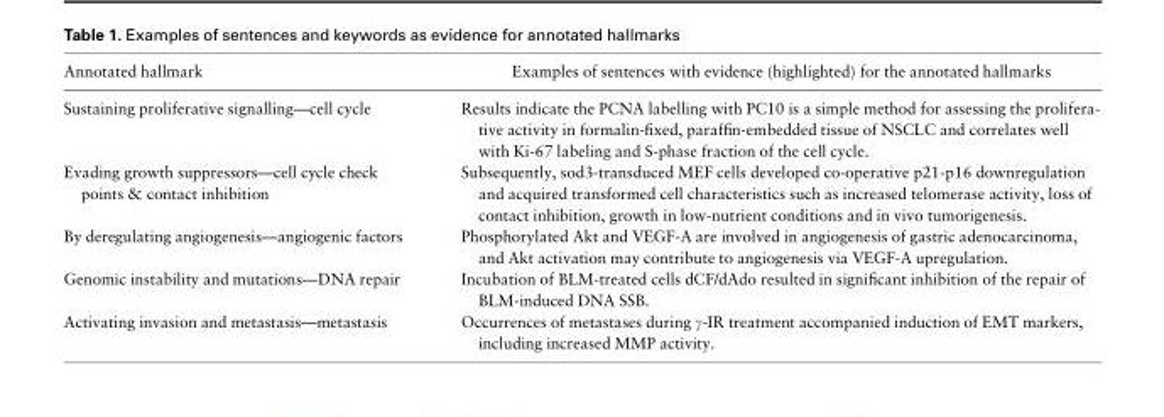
<table><thead><tr><td>Annotated hallmark</td><td>Examples of sentences with evidence (highlighted) for the annotated hallmarks</td></tr></thead><tbody><tr><td>Sustaining proliferative signalling—cell cycle</td><td>Results indicate the PCNA labelling with PC10 is a simple method for assessing the prolifera- tive activity in formalin-fixed, paraffin-embedded tissue of NSCLC and correlates well with Ki-67 labeling and S-phase fraction of the cell cycle.</td></tr><tr><td>Evading growth suppressors—cell cycle check points &amp; contact inhibition</td><td>Subsequently, sod3-transduced MEF cells developed co-operative p21-p16 downregulation and acquired transformed cell characteristics such as increased telomerase activity, loss of contact inhibition, growth in low-nutrient conditions and in vivo tumorigenesis.</td></tr><tr><td>By deregulating angiogenesis—angiogenic factors</td><td>Phosphorylated Akt and VEGF-A are involved in angiogenesis of gastric adenocarcinoma, and Akt activation may contribute to angiogenesis via VEGF-A upregulation.</td></tr><tr><td>Genomic instability and mutations—DNA repair</td><td>Incubation of BLM-treated cells dCF/dAdo resulted in significant inhibition of the repair of BLM-induced DNA SSB.</td></tr><tr><td>Activating invasion and metastasis—metastasis</td><td>Occurrences of metastases during γ-IR treatment accompanied induction of EMT markers, including increased MMP activity.</td></tr></tbody></table>